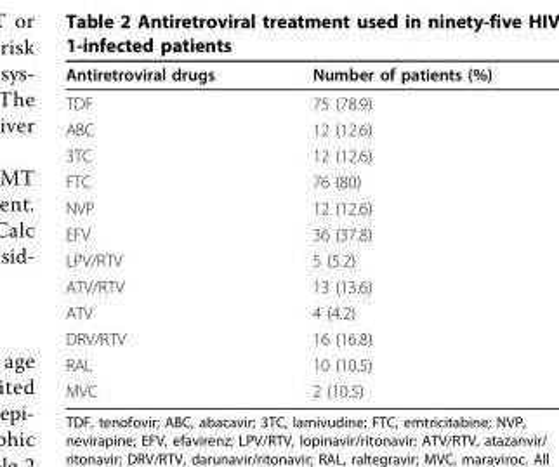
<table><thead><tr><td>Antiretroviral drugs</td><td>Number of patients (%)</td></tr></thead><tbody><tr><td>TDF</td><td>75 (78.9)</td></tr><tr><td>ABC</td><td>12 (12.6)</td></tr><tr><td>3TC</td><td>12 (12.6)</td></tr><tr><td>FTC</td><td>76 (80)</td></tr><tr><td>NVP</td><td>12 (12.6)</td></tr><tr><td>EFV</td><td>36 (37.8)</td></tr><tr><td>LPV/RTV</td><td>5 (5.2)</td></tr><tr><td>ATV/RTV</td><td>13 (13.6)</td></tr><tr><td>ATV</td><td>4 (4.2)</td></tr><tr><td>DRV/RTV</td><td>16 (16.8)</td></tr><tr><td>RAL</td><td>10 (10.5)</td></tr><tr><td>MVC</td><td>2 (10.5)</td></tr></tbody></table>